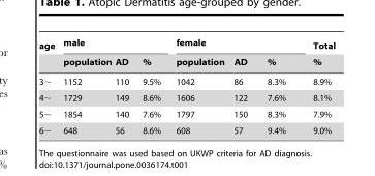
<table><thead><tr><td rowspan="2">age</td><td colspan="3">male</td><td colspan="3">female</td><td rowspan="2">Total %</td></tr><tr><td>population</td><td>AD</td><td>%</td><td>population</td><td>AD</td><td>%</td></tr></thead><tbody><tr><td>3∼</td><td>1152</td><td>110</td><td>9.5%</td><td>1042</td><td>86</td><td>8.3%</td><td>8.9%</td></tr><tr><td>4∼</td><td>1729</td><td>149</td><td>8.6%</td><td>1606</td><td>122</td><td>7.6%</td><td>8.1%</td></tr><tr><td>5∼</td><td>1854</td><td>140</td><td>7.6%</td><td>1797</td><td>150</td><td>8.3%</td><td>7.9%</td></tr><tr><td>6∼</td><td>648</td><td>56</td><td>8.6%</td><td>608</td><td>57</td><td>9.4%</td><td>9.0%</td></tr></tbody></table>